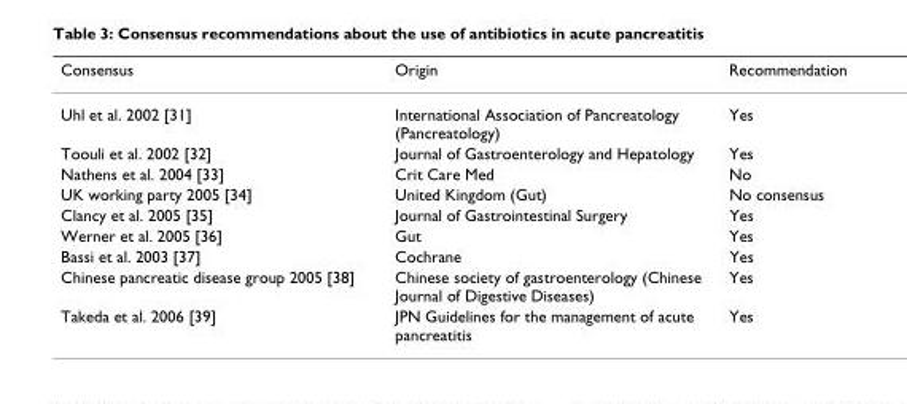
<table><thead><tr><td>Consensus</td><td>Origin</td><td>Recommendation</td></tr></thead><tbody><tr><td>Uhl et al. 2002 [31]</td><td>International Association of Pancreatology (Pancreatology)</td><td>Yes</td></tr><tr><td>Toouli et al. 2002 [32]</td><td>Journal of Gastroenterology and Hepatology</td><td>Yes</td></tr><tr><td>Nathens et al. 2004 [33]</td><td>Crit Care Med</td><td>No</td></tr><tr><td>UK working party 2005 [34]</td><td>United Kingdom (Gut)</td><td>No consensus</td></tr><tr><td>Clancy et al. 2005 [35]</td><td>Journal of Gastrointestinal Surgery</td><td>Yes</td></tr><tr><td>Werner et al. 2005 [36]</td><td>Gut</td><td>Yes</td></tr><tr><td>Bassi et al. 2003 [37]</td><td>Cochrane</td><td>Yes</td></tr><tr><td>Chinese pancreatic disease group 2005 [38]</td><td>Chinese society of gastroenterology (Chinese Journal of Digestive Diseases)</td><td>Yes</td></tr><tr><td>Takeda et al. 2006 [39]</td><td>JPN Guidelines for the management of acute pancreatitis</td><td>Yes</td></tr></tbody></table>